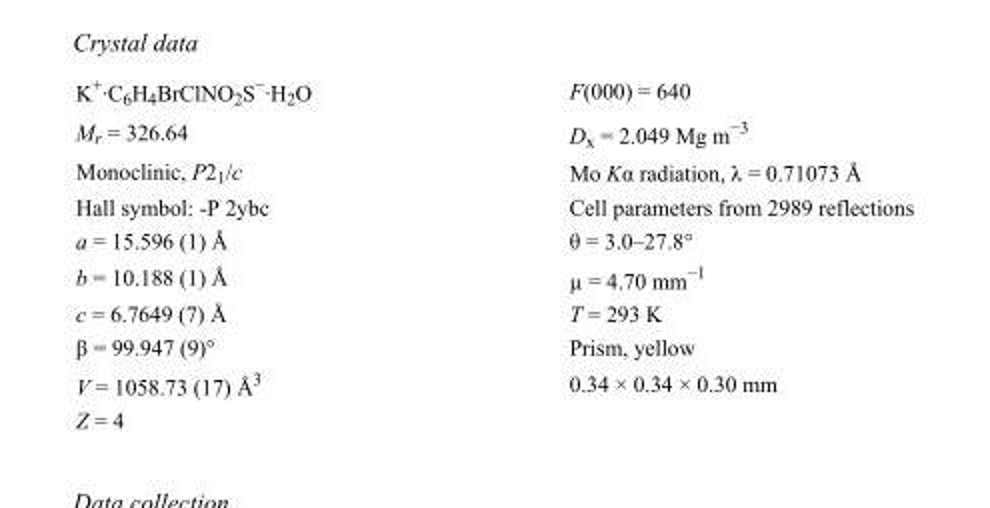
<table><tbody><tr><td>K<sup>+</sup>·C<sub>6</sub>H<sub>4</sub>BrClNO<sub>2</sub>S<sup>−</sup>·H<sub>2</sub>O</td><td>F(000) = 640</td></tr><tr><td>M<sub>r</sub> = 326.64</td><td>D<sub>x</sub> = 2.049 Mg m<sup>−3</sup></td></tr><tr><td>Monoclinic, P2<sub>1</sub>/c</td><td>Mo Kα radiation, λ = 0.71073 Å</td></tr><tr><td>Hall symbol: -P 2ybc</td><td>Cell parameters from 2989 reflections</td></tr><tr><td>a = 15.596 (1) Å</td><td>θ = 3.0–27.8°</td></tr><tr><td>b = 10.188 (1) Å</td><td>µ = 4.70 mm<sup>−1</sup></td></tr><tr><td>c = 6.7649 (7) Å</td><td>T = 293 K</td></tr><tr><td>β = 99.947 (9)°</td><td>Prism, yellow</td></tr><tr><td>V = 1058.73 (17) Å<sup>3</sup></td><td>0.34 × 0.34 × 0.30 mm</td></tr><tr><td>Z = 4</td><td></td></tr></tbody></table>